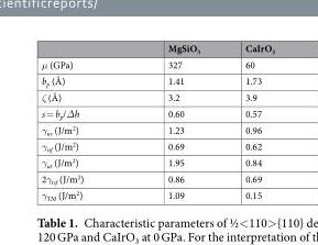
<table><thead><tr><td></td><td>MgSiO<sub>3</sub></td><td>CaIrO<sub>3</sub></td></tr></thead><tbody><tr><td>μ (GPa)</td><td>327</td><td>60</td></tr><tr><td>b<sub>p</sub> (Å)</td><td>1.41</td><td>1.73</td></tr><tr><td>ζ (Å)</td><td>3.2</td><td>3.9</td></tr><tr><td>s = b<sub>p</sub>/Δh</td><td>0.60</td><td>0.57</td></tr><tr><td>γ<sub>us</sub> (J/m<sup>2</sup>)</td><td>1.23</td><td>0.96</td></tr><tr><td>γ<sub>isf</sub> (J/m<sup>2</sup>)</td><td>0.69</td><td>0.62</td></tr><tr><td>γ<sub>ut</sub> (J/m<sup>2</sup>)</td><td>1.95</td><td>0.84</td></tr><tr><td>2γ<sub>tsf</sub> (J/m<sup>2</sup>)</td><td>0.86</td><td>0.69</td></tr><tr><td>γ<sub>TM</sub> (J/m<sup>2</sup>)</td><td>1.09</td><td>0.15</td></tr></tbody></table>